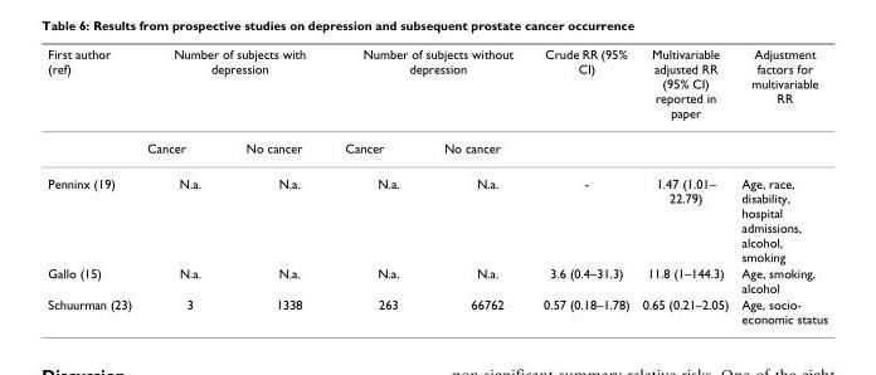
<table><thead><tr><td rowspan="2">First author (ref)</td><td colspan="2">Number of subjects with depression</td><td colspan="2">Number of subjects without depression</td><td rowspan="2">Crude RR (95% CI)</td><td rowspan="2">Multivariable adjusted RR (95% CI) reported in paper</td><td rowspan="2">Adjustment factors for multivariable RR</td></tr><tr><td>Cancer</td><td>No cancer</td><td>Cancer</td><td>No cancer</td></tr></thead><tbody><tr><td>Penninx (19)</td><td>N.a.</td><td>N.a.</td><td>N.a.</td><td>N.a.</td><td>-</td><td>1.47 (1.01– 22.79)</td><td>Age, race, disability, hospital admissions, alcohol, smoking</td></tr><tr><td>Gallo (15)</td><td>N.a.</td><td>N.a.</td><td>N.a.</td><td>N.a.</td><td>3.6 (0.4–31.3)</td><td>11.8 (1–144.3)</td><td>Age, smoking, alcohol</td></tr><tr><td>Schuurman (23)</td><td>3</td><td>1338</td><td>263</td><td>66762</td><td>0.57 (0.18–1.78)</td><td>0.65 (0.21–2.05)</td><td>Age, socio- economic status</td></tr></tbody></table>